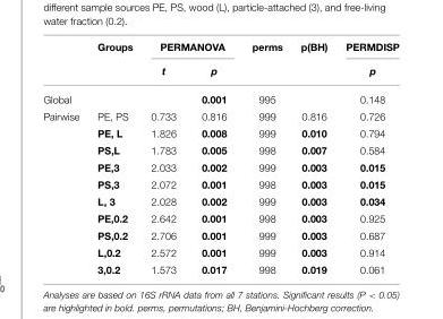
<table><thead><tr><td rowspan="2"></td><td rowspan="2">Groups</td><td colspan="2">PERMANOVA</td><td rowspan="2">perms</td><td rowspan="2">p(BH)</td><td rowspan="2">PERMDISP p</td></tr><tr><td>t</td><td>p</td></tr></thead><tbody><tr><td>Global</td><td></td><td></td><td>0.001</td><td>995</td><td></td><td>0.148</td></tr><tr><td rowspan="10">Pairwise</td><td>PE, PS</td><td>0.733</td><td>0.816</td><td>999</td><td>0.816</td><td>0.726</td></tr><tr><td>PE, L</td><td>1.826</td><td>0.008</td><td>999</td><td>0.010</td><td>0.794</td></tr><tr><td>PS,L</td><td>1.783</td><td>0.005</td><td>998</td><td>0.007</td><td>0.584</td></tr><tr><td>PE,3</td><td>2.033</td><td>0.002</td><td>999</td><td>0.003</td><td>0.015</td></tr><tr><td>PS,3</td><td>2.072</td><td>0.001</td><td>998</td><td>0.003</td><td>0.015</td></tr><tr><td>L, 3</td><td>2.028</td><td>0.002</td><td>999</td><td>0.003</td><td>0.034</td></tr><tr><td>PE,0.2</td><td>2.642</td><td>0.001</td><td>998</td><td>0.003</td><td>0.925</td></tr><tr><td>PS,0.2</td><td>2.706</td><td>0.001</td><td>999</td><td>0.003</td><td>0.687</td></tr><tr><td>L,0.2</td><td>2.572</td><td>0.001</td><td>999</td><td>0.003</td><td>0.914</td></tr><tr><td>3,0.2</td><td>1.573</td><td>0.017</td><td>998</td><td>0.019</td><td>0.061</td></tr></tbody></table>